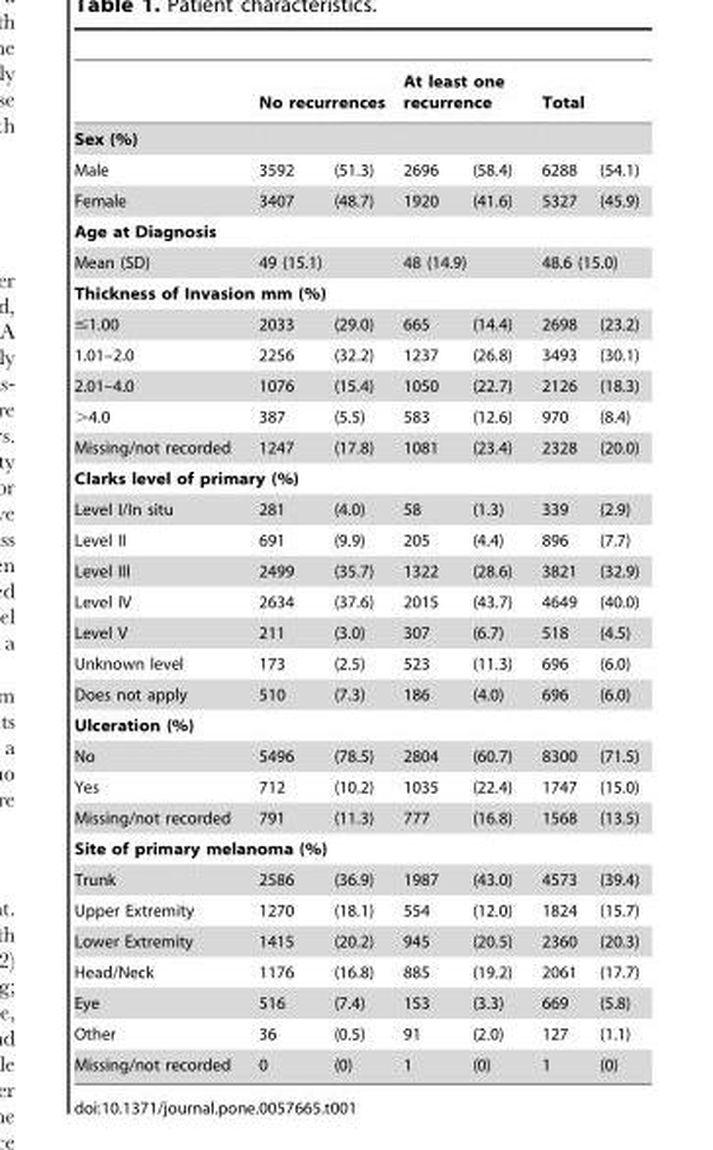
<table><thead><tr><td></td><td colspan="2">No recurrences</td><td colspan="2">At least one recurrence</td><td colspan="2">Total</td></tr><tr><td colspan="7">Sex (%)</td></tr><tr><td>Male</td><td>3592</td><td>(51.3)</td><td>2696</td><td>(58.4)</td><td>6288</td><td>(54.1)</td></tr></thead><tbody><tr><td>Female</td><td>3407</td><td>(48.7)</td><td>1920</td><td>(41.6)</td><td>5327</td><td>(45.9)</td></tr><tr><td colspan="7">Age at Diagnosis</td></tr><tr><td>Mean (SD)</td><td colspan="2">49 (15.1)</td><td colspan="2">48 (14.9)</td><td colspan="2">48.6 (15.0)</td></tr><tr><td colspan="7">Thickness of Invasion mm (%)</td></tr><tr><td>≤1.00</td><td>2033</td><td>(29.0)</td><td>665</td><td>(14.4)</td><td>2698</td><td>(23.2)</td></tr><tr><td>1.01–2.0</td><td>2256</td><td>(32.2)</td><td>1237</td><td>(26.8)</td><td>3493</td><td>(30.1)</td></tr><tr><td>2.01–4.0</td><td>1076</td><td>(15.4)</td><td>1050</td><td>(22.7)</td><td>2126</td><td>(18.3)</td></tr><tr><td>&gt;4.0</td><td>387</td><td>(5.5)</td><td>583</td><td>(12.6)</td><td>970</td><td>(8.4)</td></tr><tr><td>Missing/not recorded</td><td>1247</td><td>(17.8)</td><td>1081</td><td>(23.4)</td><td>2328</td><td>(20.0)</td></tr><tr><td colspan="7">Clarks level of primary (%)</td></tr><tr><td>Level I/In situ</td><td>281</td><td>(4.0)</td><td>58</td><td>(1.3)</td><td>339</td><td>(2.9)</td></tr><tr><td>Level II</td><td>691</td><td>(9.9)</td><td>205</td><td>(4.4)</td><td>896</td><td>(7.7)</td></tr><tr><td>Level III</td><td>2499</td><td>(35.7)</td><td>1322</td><td>(28.6)</td><td>3821</td><td>(32.9)</td></tr><tr><td>Level IV</td><td>2634</td><td>(37.6)</td><td>2015</td><td>(43.7)</td><td>4649</td><td>(40.0)</td></tr><tr><td>Level V</td><td>211</td><td>(3.0)</td><td>307</td><td>(6.7)</td><td>518</td><td>(4.5)</td></tr><tr><td>Unknown level</td><td>173</td><td>(2.5)</td><td>523</td><td>(11.3)</td><td>696</td><td>(6.0)</td></tr><tr><td>Does not apply</td><td>510</td><td>(7.3)</td><td>186</td><td>(4.0)</td><td>696</td><td>(6.0)</td></tr><tr><td colspan="7">Ulceration (%)</td></tr><tr><td>No</td><td>5496</td><td>(78.5)</td><td>2804</td><td>(60.7)</td><td>8300</td><td>(71.5)</td></tr><tr><td>Yes</td><td>712</td><td>(10.2)</td><td>1035</td><td>(22.4)</td><td>1747</td><td>(15.0)</td></tr><tr><td>Missing/not recorded</td><td>791</td><td>(11.3)</td><td>777</td><td>(16.8)</td><td>1568</td><td>(13.5)</td></tr><tr><td colspan="7">Site of primary melanoma (%)</td></tr><tr><td>Trunk</td><td>2586</td><td>(36.9)</td><td>1987</td><td>(43.0)</td><td>4573</td><td>(39.4)</td></tr><tr><td>Upper Extremity</td><td>1270</td><td>(18.1)</td><td>554</td><td>(12.0)</td><td>1824</td><td>(15.7)</td></tr><tr><td>Lower Extremity</td><td>1415</td><td>(20.2)</td><td>945</td><td>(20.5)</td><td>2360</td><td>(20.3)</td></tr><tr><td>Head/Neck</td><td>1176</td><td>(16.8)</td><td>885</td><td>(19.2)</td><td>2061</td><td>(17.7)</td></tr><tr><td>Eye</td><td>516</td><td>(7.4)</td><td>153</td><td>(3.3)</td><td>669</td><td>(5.8)</td></tr><tr><td>Other</td><td>36</td><td>(0.5)</td><td>91</td><td>(2.0)</td><td>127</td><td>(1.1)</td></tr><tr><td>Missing/not recorded</td><td>0</td><td>(0)</td><td>1</td><td>(0)</td><td>1</td><td>(0)</td></tr></tbody></table>